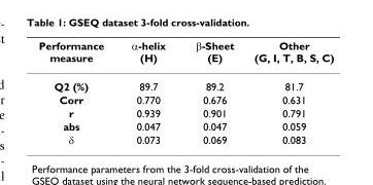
<table><thead><tr><td>Performance measure</td><td>α-helix (H)</td><td>β-Sheet (E)</td><td>Other (G, I, T, B, S, C)</td></tr></thead><tbody><tr><td>Q2 (%)</td><td>89.7</td><td>89.2</td><td>81.7</td></tr><tr><td>Corr</td><td>0.770</td><td>0.676</td><td>0.631</td></tr><tr><td>r</td><td>0.939</td><td>0.901</td><td>0.791</td></tr><tr><td>abs</td><td>0.047</td><td>0.047</td><td>0.059</td></tr><tr><td>δ</td><td>0.073</td><td>0.069</td><td>0.083</td></tr></tbody></table>